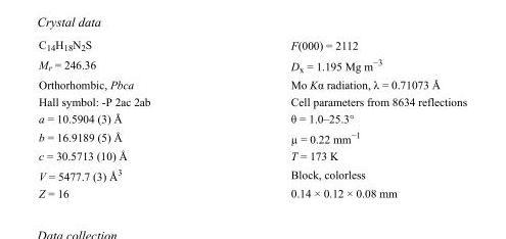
<table><tbody><tr><td>C<sub>14</sub>H<sub>18</sub>N<sub>2</sub>S</td><td>F(000) = 2112</td></tr><tr><td>M<sub>r</sub> = 246.36</td><td>D<sub>x</sub> = 1.195 Mg m<sup>−3</sup></td></tr><tr><td>Orthorhombic, Pbca</td><td>Mo Kα radiation, λ = 0.71073 Å</td></tr><tr><td>Hall symbol: -P 2ac 2ab</td><td>Cell parameters from 8634 reflections</td></tr><tr><td>a = 10.5904 (3) Å</td><td>θ = 1.0–25.3°</td></tr><tr><td>b = 16.9189 (5) Å</td><td>µ = 0.22 mm<sup>−1</sup></td></tr><tr><td>c = 30.5713 (10) Å</td><td>T = 173 K</td></tr><tr><td>V = 5477.7 (3) Å<sup>3</sup></td><td>Block, colorless</td></tr><tr><td>Z = 16</td><td>0.14 × 0.12 × 0.08 mm</td></tr></tbody></table>